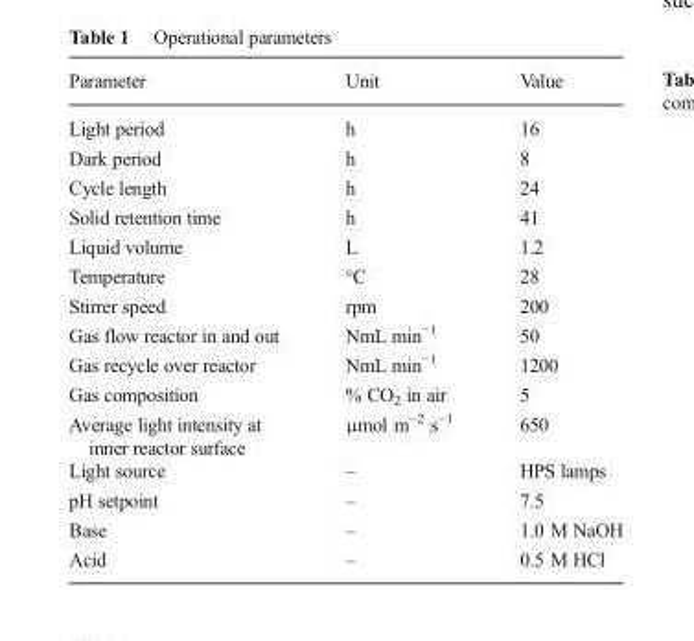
<table><thead><tr><td>Parameter</td><td>Unit</td><td>Value</td></tr></thead><tbody><tr><td>Light period</td><td>h</td><td>16</td></tr><tr><td>Dark period</td><td>h</td><td>8</td></tr><tr><td>Cycle length</td><td>h</td><td>24</td></tr><tr><td>Solid retention time</td><td>h</td><td>41</td></tr><tr><td>Liquid volume</td><td>L</td><td>1.2</td></tr><tr><td>Temperature</td><td>°C</td><td>28</td></tr><tr><td>Stirrer speed</td><td>rpm</td><td>200</td></tr><tr><td>Gas flow reactor in and out</td><td>NmL min<sup>−1</sup></td><td>50</td></tr><tr><td>Gas recycle over reactor</td><td>NmL min<sup>−1</sup></td><td>1200</td></tr><tr><td>Gas composition</td><td>% CO<sub>2</sub> in air</td><td>5</td></tr><tr><td>Average light intensity at inner reactor surface</td><td>μmol m<sup>−2</sup> s<sup>−1</sup></td><td>650</td></tr><tr><td>Light source</td><td>–</td><td>HPS lamps</td></tr><tr><td>pH setpoint</td><td>–</td><td>7.5</td></tr><tr><td>Base</td><td>–</td><td>1.0 M NaOH</td></tr><tr><td>Acid</td><td>–</td><td>0.5 M HCl</td></tr></tbody></table>